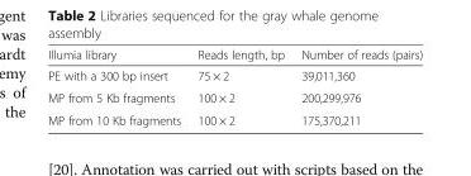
<table><thead><tr><td>Illumia library</td><td>Reads length, bp</td><td>Number of reads (pairs)</td></tr></thead><tbody><tr><td>PE with a 300 bp insert</td><td>75 × 2</td><td>39,011,360</td></tr><tr><td>MP from 5 Kb fragments</td><td>100 × 2</td><td>200,299,976</td></tr><tr><td>MP from 10 Kb fragments</td><td>100 × 2</td><td>175,370,211</td></tr></tbody></table>